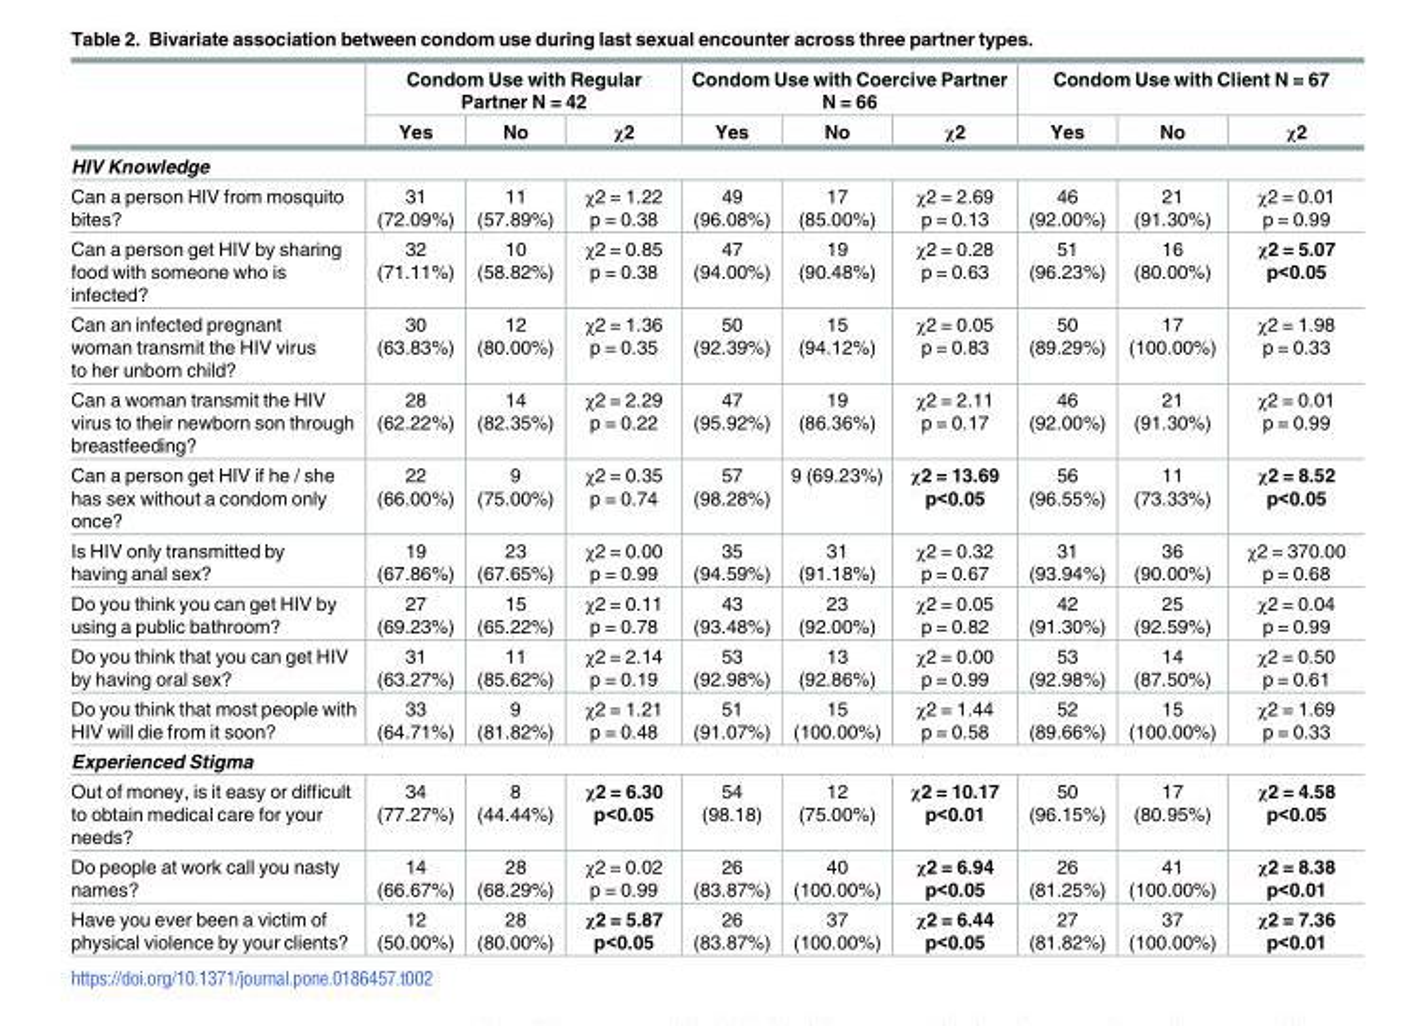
<table><thead><tr><td rowspan="2"></td><td colspan="3">Condom Use with Regular Partner N = 42</td><td colspan="3">Condom Use with Coercive Partner N = 66</td><td colspan="3">Condom Use with Client N = 67</td></tr><tr><td>Yes</td><td>No</td><td>χ2</td><td>Yes</td><td>No</td><td>χ2</td><td>Yes</td><td>No</td><td>χ2</td></tr></thead><tbody><tr><td colspan="10">HIV Knowledge</td></tr><tr><td>Can a person HIV from mosquito bites?</td><td>31 (72.09%)</td><td>11 (57.89%)</td><td>χ2 = 1.22 p = 0.38</td><td>49 (96.08%)</td><td>17 (85.00%)</td><td>χ2 = 2.69 p = 0.13</td><td>46 (92.00%)</td><td>21 (91.30%)</td><td>χ2 = 0.01 p = 0.99</td></tr><tr><td>Can a person get HIV by sharing food with someone who is infected?</td><td>32 (71.11%)</td><td>10 (58.82%)</td><td>χ2 = 0.85 p = 0.38</td><td>47 (94.00%)</td><td>19 (90.48%)</td><td>χ2 = 0.28 p = 0.63</td><td>51 (96.23%)</td><td>16 (80.00%)</td><td>χ2 = 5.07 p&lt;0.05</td></tr><tr><td>Can an infected pregnant woman transmit the HIV virus to her unborn child?</td><td>30 (63.83%)</td><td>12 (80.00%)</td><td>χ2 = 1.36 p = 0.35</td><td>50 (92.39%)</td><td>15 (94.12%)</td><td>χ2 = 0.05 p = 0.83</td><td>50 (89.29%)</td><td>17 (100.00%)</td><td>χ2 = 1.98 p = 0.33</td></tr><tr><td>Can a woman transmit the HIV virus to their newborn son through breastfeeding?</td><td>28 (62.22%)</td><td>14 (82.35%)</td><td>χ2 = 2.29 p = 0.22</td><td>47 (95.92%)</td><td>19 (86.36%)</td><td>χ2 = 2.11 p = 0.17</td><td>46 (92.00%)</td><td>21 (91.30%)</td><td>χ2 = 0.01 p = 0.99</td></tr><tr><td>Can a person get HIV if he / she has sex without a condom only once?</td><td>22 (66.00%)</td><td>9 (75.00%)</td><td>χ2 = 0.35 p = 0.74</td><td>57 (98.28%)</td><td>9 (69.23%)</td><td>χ2 = 13.69 p&lt;0.05</td><td>56 (96.55%)</td><td>11 (73.33%)</td><td>χ2 = 8.52 p&lt;0.05</td></tr><tr><td>Is HIV only transmitted by having anal sex?</td><td>19 (67.86%)</td><td>23 (67.65%)</td><td>χ2 = 0.00 p = 0.99</td><td>35 (94.59%)</td><td>31 (91.18%)</td><td>χ2 = 0.32 p = 0.67</td><td>31 (93.94%)</td><td>36 (90.00%)</td><td>χ2 = 370.00 p = 0.68</td></tr><tr><td>Do you think you can get HIV by using a public bathroom?</td><td>27 (69.23%)</td><td>15 (65.22%)</td><td>χ2 = 0.11 p = 0.78</td><td>43 (93.48%)</td><td>23 (92.00%)</td><td>χ2 = 0.05 p = 0.82</td><td>42 (91.30%)</td><td>25 (92.59%)</td><td>χ2 = 0.04 p = 0.99</td></tr><tr><td>Do you think that you can get HIV by having oral sex?</td><td>31 (63.27%)</td><td>11 (85.62%)</td><td>χ2 = 2.14 p = 0.19</td><td>53 (92.98%)</td><td>13 (92.86%)</td><td>χ2 = 0.00 p = 0.99</td><td>53 (92.98%)</td><td>14 (87.50%)</td><td>χ2 = 0.50 p = 0.61</td></tr><tr><td>Do you think that most people with HIV will die from it soon?</td><td>33 (64.71%)</td><td>9 (81.82%)</td><td>χ2 = 1.21 p = 0.48</td><td>51 (91.07%)</td><td>15 (100.00%)</td><td>χ2 = 1.44 p = 0.58</td><td>52 (89.66%)</td><td>15 (100.00%)</td><td>χ2 = 1.69 p = 0.33</td></tr><tr><td colspan="10">Experienced Stigma</td></tr><tr><td>Out of money, is it easy or difficult to obtain medical care for your needs?</td><td>34 (77.27%)</td><td>8 (44.44%)</td><td>χ2 = 6.30 p&lt;0.05</td><td>54 (98.18)</td><td>12 (75.00%)</td><td>χ2 = 10.17 p&lt;0.01</td><td>50 (96.15%)</td><td>17 (80.95%)</td><td>χ2 = 4.58 p&lt;0.05</td></tr><tr><td>Do people at work call you nasty names?</td><td>14 (66.67%)</td><td>28 (68.29%)</td><td>χ2 = 0.02 p = 0.99</td><td>26 (83.87%)</td><td>40 (100.00%)</td><td>χ2 = 6.94 p&lt;0.05</td><td>26 (81.25%)</td><td>41 (100.00%)</td><td>χ2 = 8.38 p&lt;0.01</td></tr><tr><td>Have you ever been a victim of physical violence by your clients?</td><td>12 (50.00%)</td><td>28 (80.00%)</td><td>χ2 = 5.87 p&lt;0.05</td><td>26 (83.87%)</td><td>37 (100.00%)</td><td>χ2 = 6.44 p&lt;0.05</td><td>27 (81.82%)</td><td>37 (100.00%)</td><td>χ2 = 7.36 p&lt;0.01</td></tr></tbody></table>